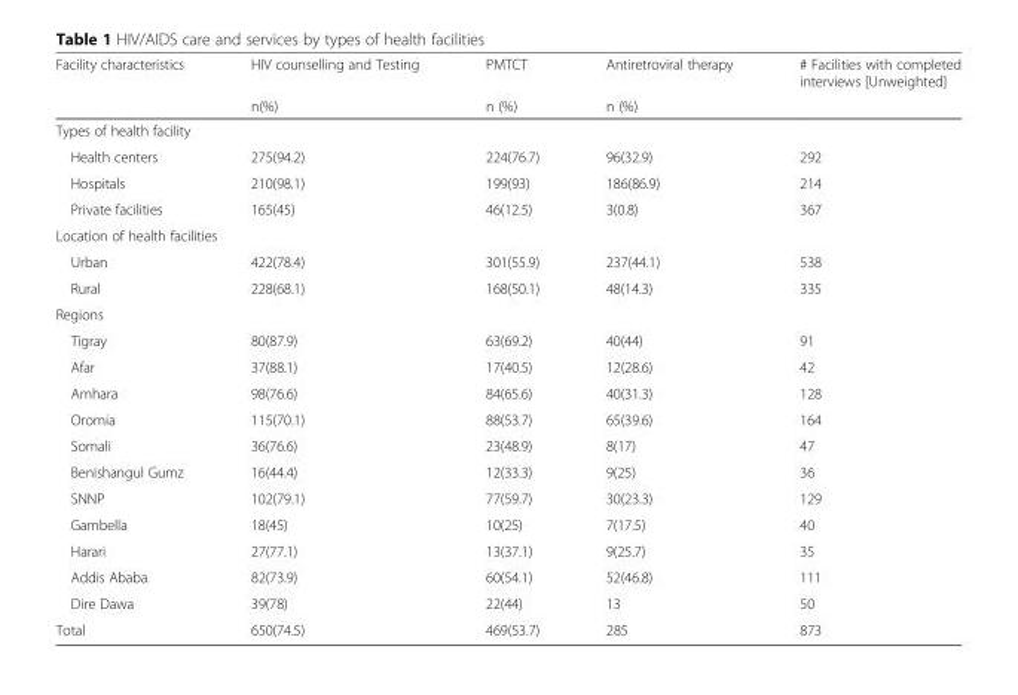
<table><thead><tr><td rowspan="2">Facility characteristics</td><td rowspan="2">HIV counselling and Testing n(%)</td><td rowspan="2">PMTCT n (%)</td><td rowspan="2">Antiretroviral therapy n (%)</td><td rowspan="2"># Facilities with completed interviews [Unweighted]</td></tr><tr></tr></thead><tbody><tr><td colspan="5">Types of health facility</td></tr><tr><td>Health centers</td><td>275(94.2)</td><td>224(76.7)</td><td>96(32.9)</td><td>292</td></tr><tr><td>Hospitals</td><td>210(98.1)</td><td>199(93)</td><td>186(86.9)</td><td>214</td></tr><tr><td>Private facilities</td><td>165(45)</td><td>46(12.5)</td><td>3(0.8)</td><td>367</td></tr><tr><td colspan="5">Location of health facilities</td></tr><tr><td>Urban</td><td>422(78.4)</td><td>301(55.9)</td><td>237(44.1)</td><td>538</td></tr><tr><td>Rural</td><td>228(68.1)</td><td>168(50.1)</td><td>48(14.3)</td><td>335</td></tr><tr><td colspan="5">Regions</td></tr><tr><td>Tigray</td><td>80(87.9)</td><td>63(69.2)</td><td>40(44)</td><td>91</td></tr><tr><td>Afar</td><td>37(88.1)</td><td>17(40.5)</td><td>12(28.6)</td><td>42</td></tr><tr><td>Amhara</td><td>98(76.6)</td><td>84(65.6)</td><td>40(31.3)</td><td>128</td></tr><tr><td>Oromia</td><td>115(70.1)</td><td>88(53.7)</td><td>65(39.6)</td><td>164</td></tr><tr><td>Somali</td><td>36(76.6)</td><td>23(48.9)</td><td>8(17)</td><td>47</td></tr><tr><td>Benishangul Gumz</td><td>16(44.4)</td><td>12(33.3)</td><td>9(25)</td><td>36</td></tr><tr><td>SNNP</td><td>102(79.1)</td><td>77(59.7)</td><td>30(23.3)</td><td>129</td></tr><tr><td>Gambella</td><td>18(45)</td><td>10(25)</td><td>7(17.5)</td><td>40</td></tr><tr><td>Harari</td><td>27(77.1)</td><td>13(37.1)</td><td>9(25.7)</td><td>35</td></tr><tr><td>Addis Ababa</td><td>82(73.9)</td><td>60(54.1)</td><td>52(46.8)</td><td>111</td></tr><tr><td>Dire Dawa</td><td>39(78)</td><td>22(44)</td><td>13</td><td>50</td></tr><tr><td>Total</td><td>650(74.5)</td><td>469(53.7)</td><td>285</td><td>873</td></tr></tbody></table>